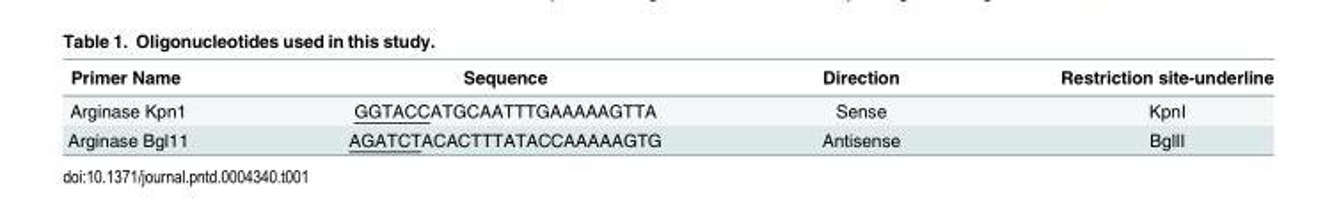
<table><thead><tr><td>Primer Name</td><td>Sequence</td><td>Direction</td><td>Restriction site-underline</td></tr></thead><tbody><tr><td>Arginase Kpn1</td><td>GGTACCATGCAATTTGAAAAAGTTA</td><td>Sense</td><td>KpnI</td></tr><tr><td>Arginase Bgl11</td><td>AGATCTACACTTTATACCAAAAAGTG</td><td>Antisense</td><td>BglII</td></tr></tbody></table>